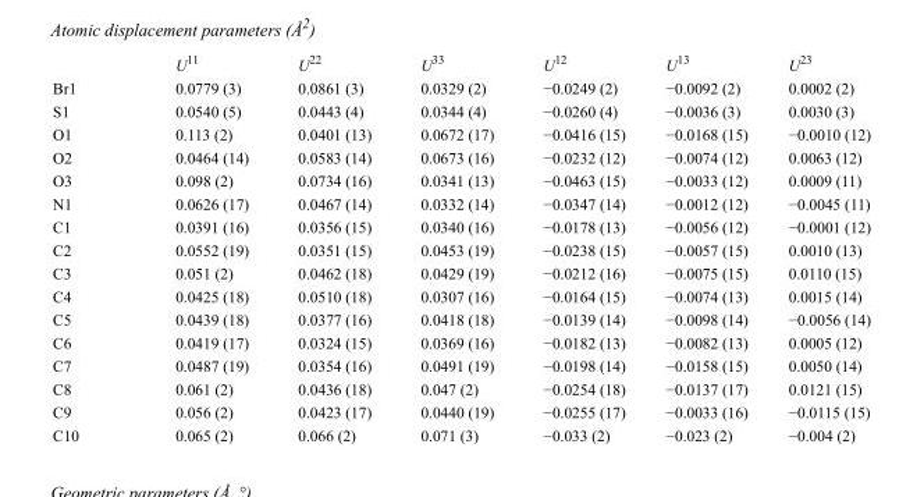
<table><thead><tr><td></td><td>U<sup>11</sup></td><td>U<sup>22</sup></td><td>U<sup>33</sup></td><td>U<sup>12</sup></td><td>U<sup>13</sup></td><td>U<sup>23</sup></td></tr></thead><tbody><tr><td>Br1</td><td>0.0779 (3)</td><td>0.0861 (3)</td><td>0.0329 (2)</td><td>−0.0249 (2)</td><td>−0.0092 (2)</td><td>0.0002 (2)</td></tr><tr><td>S1</td><td>0.0540 (5)</td><td>0.0443 (4)</td><td>0.0344 (4)</td><td>−0.0260 (4)</td><td>−0.0036 (3)</td><td>0.0030 (3)</td></tr><tr><td>O1</td><td>0.113 (2)</td><td>0.0401 (13)</td><td>0.0672 (17)</td><td>−0.0416 (15)</td><td>−0.0168 (15)</td><td>−0.0010 (12)</td></tr><tr><td>O2</td><td>0.0464 (14)</td><td>0.0583 (14)</td><td>0.0673 (16)</td><td>−0.0232 (12)</td><td>−0.0074 (12)</td><td>0.0063 (12)</td></tr><tr><td>O3</td><td>0.098 (2)</td><td>0.0734 (16)</td><td>0.0341 (13)</td><td>−0.0463 (15)</td><td>−0.0033 (12)</td><td>0.0009 (11)</td></tr><tr><td>N1</td><td>0.0626 (17)</td><td>0.0467 (14)</td><td>0.0332 (14)</td><td>−0.0347 (14)</td><td>−0.0012 (12)</td><td>−0.0045 (11)</td></tr><tr><td>C1</td><td>0.0391 (16)</td><td>0.0356 (15)</td><td>0.0340 (16)</td><td>−0.0178 (13)</td><td>−0.0056 (12)</td><td>−0.0001 (12)</td></tr><tr><td>C2</td><td>0.0552 (19)</td><td>0.0351 (15)</td><td>0.0453 (19)</td><td>−0.0238 (15)</td><td>−0.0057 (15)</td><td>0.0010 (13)</td></tr><tr><td>C3</td><td>0.051 (2)</td><td>0.0462 (18)</td><td>0.0429 (19)</td><td>−0.0212 (16)</td><td>−0.0075 (15)</td><td>0.0110 (15)</td></tr><tr><td>C4</td><td>0.0425 (18)</td><td>0.0510 (18)</td><td>0.0307 (16)</td><td>−0.0164 (15)</td><td>−0.0074 (13)</td><td>0.0015 (14)</td></tr><tr><td>C5</td><td>0.0439 (18)</td><td>0.0377 (16)</td><td>0.0418 (18)</td><td>−0.0139 (14)</td><td>−0.0098 (14)</td><td>−0.0056 (14)</td></tr><tr><td>C6</td><td>0.0419 (17)</td><td>0.0324 (15)</td><td>0.0369 (16)</td><td>−0.0182 (13)</td><td>−0.0082 (13)</td><td>0.0005 (12)</td></tr><tr><td>C7</td><td>0.0487 (19)</td><td>0.0354 (16)</td><td>0.0491 (19)</td><td>−0.0198 (14)</td><td>−0.0158 (15)</td><td>0.0050 (14)</td></tr><tr><td>C8</td><td>0.061 (2)</td><td>0.0436 (18)</td><td>0.047 (2)</td><td>−0.0254 (18)</td><td>−0.0137 (17)</td><td>0.0121 (15)</td></tr><tr><td>C9</td><td>0.056 (2)</td><td>0.0423 (17)</td><td>0.0440 (19)</td><td>−0.0255 (17)</td><td>−0.0033 (16)</td><td>−0.0115 (15)</td></tr><tr><td>C10</td><td>0.065 (2)</td><td>0.066 (2)</td><td>0.071 (3)</td><td>−0.033 (2)</td><td>−0.023 (2)</td><td>−0.004 (2)</td></tr></tbody></table>